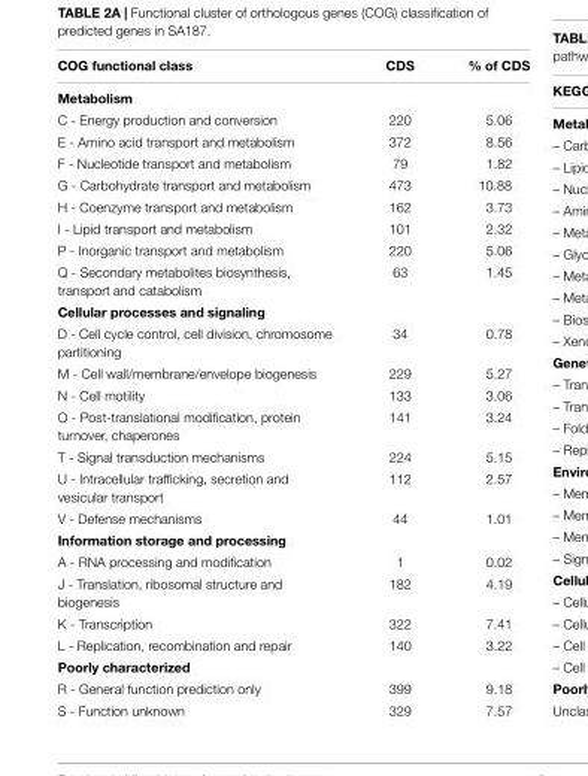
<table><thead><tr><td>COG functional class</td><td>CDS</td><td>% of CDS</td></tr></thead><tbody><tr><td colspan="3">Metabolism</td></tr><tr><td>C - Energy production and conversion</td><td>220</td><td>5.06</td></tr><tr><td>E - Amino acid transport and metabolism</td><td>372</td><td>8.56</td></tr><tr><td>F - Nucleotide transport and metabolism</td><td>79</td><td>1.82</td></tr><tr><td>G - Carbohydrate transport and metabolism</td><td>473</td><td>10.88</td></tr><tr><td>H - Coenzyme transport and metabolism</td><td>162</td><td>3.73</td></tr><tr><td>I - Lipid transport and metabolism</td><td>101</td><td>2.32</td></tr><tr><td>P - Inorganic transport and metabolism</td><td>220</td><td>5.06</td></tr><tr><td>Q - Secondary metabolites biosynthesis, transport and catabolism</td><td>63</td><td>1.45</td></tr><tr><td colspan="3">Cellular processes and signaling</td></tr><tr><td>D - Cell cycle control, cell division, chromosome partitioning</td><td>34</td><td>0.78</td></tr><tr><td>M - Cell wall/membrane/envelope biogenesis</td><td>229</td><td>5.27</td></tr><tr><td>N - Cell motility</td><td>133</td><td>3.06</td></tr><tr><td>O - Post-translational modification, protein turnover, chaperones</td><td>141</td><td>3.24</td></tr><tr><td>T - Signal transduction mechanisms</td><td>224</td><td>5.15</td></tr><tr><td>U - Intracellular trafficking, secretion and vesicular transport</td><td>112</td><td>2.57</td></tr><tr><td>V - Defense mechanisms</td><td>44</td><td>1.01</td></tr><tr><td colspan="3">Information storage and processing</td></tr><tr><td>A - RNA processing and modification</td><td>1</td><td>0.02</td></tr><tr><td>J - Translation, ribosomal structure and biogenesis</td><td>182</td><td>4.19</td></tr><tr><td>K - Transcription</td><td>322</td><td>7.41</td></tr><tr><td>L - Replication, recombination and repair</td><td>140</td><td>3.22</td></tr><tr><td colspan="3">Poorly characterized</td></tr><tr><td>R - General function prediction only</td><td>399</td><td>9.18</td></tr><tr><td>S - Function unknown</td><td>329</td><td>7.57</td></tr></tbody></table>